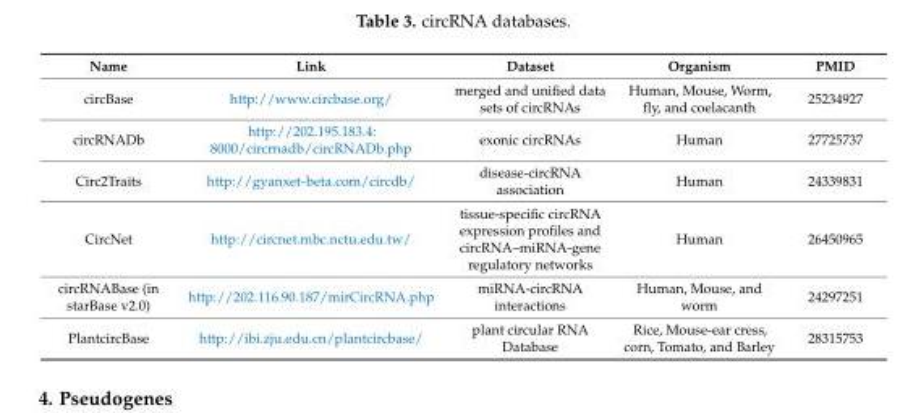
<table><thead><tr><td>Name</td><td>Link</td><td>Dataset</td><td>Organism</td><td>PMID</td></tr></thead><tbody><tr><td>circBase</td><td>http://www.circbase.org/</td><td>merged and unified data sets of circRNAs</td><td>Human, Mouse, Worm, fly, and coelacanth</td><td>25234927</td></tr><tr><td>circRNADb</td><td>http://202.195.183.4: 8000/circrnadb/circRNADb.php</td><td>exonic circRNAs</td><td>Human</td><td>27725737</td></tr><tr><td>Circ2Traits</td><td>http://gyanxet-beta.com/circdb/</td><td>disease-circRNA association</td><td>Human</td><td>24339831</td></tr><tr><td>CircNet</td><td>http://circnet.mbc.nctu.edu.tw/</td><td>tissue-specific circRNA expression profiles and circRNA–miRNA-gene regulatory networks</td><td>Human</td><td>26450965</td></tr><tr><td>circRNABase (in starBase v2.0)</td><td>http://202.116.90.187/mirCircRNA.php</td><td>miRNA-circRNA interactions</td><td>Human, Mouse, and worm</td><td>24297251</td></tr><tr><td>PlantcircBase</td><td>http://ibi.zju.edu.cn/plantcircbase/</td><td>plant circular RNA Database</td><td>Rice, Mouse-ear cress, corn, Tomato, and Barley</td><td>28315753</td></tr></tbody></table>